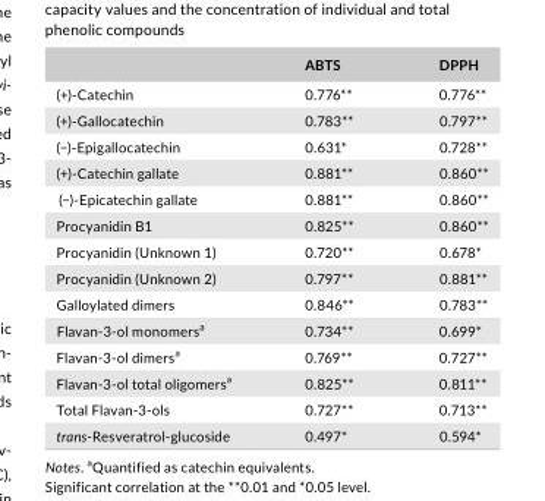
<table><thead><tr><td></td><td>ABTS</td><td>DPPH</td></tr></thead><tbody><tr><td>(+)- Catechin</td><td>0.776**</td><td>0.776**</td></tr><tr><td>(+)- Gallocatechin</td><td>0.783**</td><td>0.797**</td></tr><tr><td>(−)- Epigallocatechin</td><td>0.631*</td><td>0.728**</td></tr><tr><td>(+)- Catechin gallate</td><td>0.881**</td><td>0.860**</td></tr><tr><td>(−)- Epicatechin gallate</td><td>0.881**</td><td>0.860**</td></tr><tr><td>Procyanidin B1</td><td>0.825**</td><td>0.860**</td></tr><tr><td>Procyanidin (Unknown 1)</td><td>0.720**</td><td>0.678*</td></tr><tr><td>Procyanidin (Unknown 2)</td><td>0.797**</td><td>0.881**</td></tr><tr><td>Galloylated dimers</td><td>0.846**</td><td>0.783**</td></tr><tr><td>Flavan- 3- ol monomers<sup>a</sup></td><td>0.734**</td><td>0.699*</td></tr><tr><td>Flavan- 3- ol dimers<sup>a</sup></td><td>0.769**</td><td>0.727**</td></tr><tr><td>Flavan- 3- ol total oligomers<sup>a</sup></td><td>0.825**</td><td>0.811**</td></tr><tr><td>Total Flavan- 3- ols</td><td>0.727**</td><td>0.713**</td></tr><tr><td>trans- Resveratrol- glucoside</td><td>0.497*</td><td>0.594*</td></tr></tbody></table>